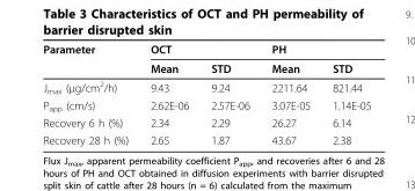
<table><thead><tr><td rowspan="2">Parameter</td><td colspan="2">OCT</td><td colspan="2">PH</td></tr><tr><td>Mean</td><td>STD</td><td>Mean</td><td>STD</td></tr></thead><tbody><tr><td>J<sub>max</sub> (μg/cm<sup>2</sup>/h)</td><td>9.43</td><td>9.24</td><td>2211.64</td><td>821.44</td></tr><tr><td>P<sub>app</sub> (cm/s)</td><td>2.62E-06</td><td>2.57E-06</td><td>3.07E-05</td><td>1.14E-05</td></tr><tr><td>Recovery 6 h (%)</td><td>2.34</td><td>2.29</td><td>26.27</td><td>6.14</td></tr><tr><td>Recovery 28 h (%)</td><td>2.65</td><td>1.87</td><td>43.67</td><td>2.38</td></tr></tbody></table>